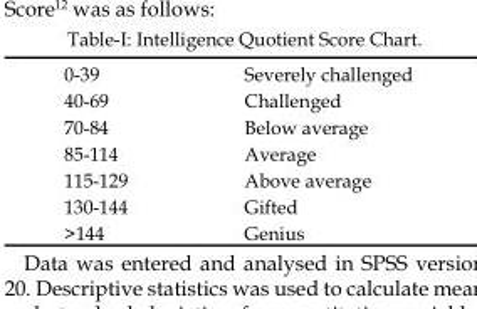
<table><tbody><tr><td>0-39</td><td>Severely challenged</td></tr><tr><td>40-69</td><td>Challenged</td></tr><tr><td>70-84</td><td>Below average</td></tr><tr><td>85-114</td><td>Average</td></tr><tr><td>115-129</td><td>Above average</td></tr><tr><td>130-144</td><td>Gifted</td></tr><tr><td>&gt;144</td><td>Genius</td></tr></tbody></table>